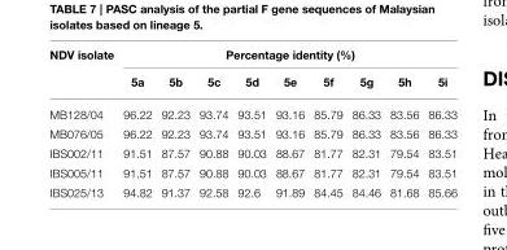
<table><thead><tr><td rowspan="2">NDV isolate</td><td colspan="9">Percentage identity (%)</td></tr><tr><td>5a</td><td>5b</td><td>5c</td><td>5d</td><td>5e</td><td>5f</td><td>5g</td><td>5h</td><td>5i</td></tr></thead><tbody><tr><td>MB128/04</td><td>96.22</td><td>92.23</td><td>93.74</td><td>93.51</td><td>93.16</td><td>85.79</td><td>86.33</td><td>83.56</td><td>86.33</td></tr><tr><td>MB076/05</td><td>96.22</td><td>92.23</td><td>93.74</td><td>93.51</td><td>93.16</td><td>85.79</td><td>86.33</td><td>83.56</td><td>86.33</td></tr><tr><td>IBS002/11</td><td>91.51</td><td>87.57</td><td>90.88</td><td>90.03</td><td>88.67</td><td>81.77</td><td>82.31</td><td>79.54</td><td>83.51</td></tr><tr><td>IBS005/11</td><td>91.51</td><td>87.57</td><td>90.88</td><td>90.03</td><td>88.67</td><td>81.77</td><td>82.31</td><td>79.54</td><td>83.51</td></tr><tr><td>IBS025/13</td><td>94.82</td><td>91.37</td><td>92.58</td><td>92.6</td><td>91.89</td><td>84.45</td><td>84.46</td><td>81.68</td><td>85.66</td></tr></tbody></table>